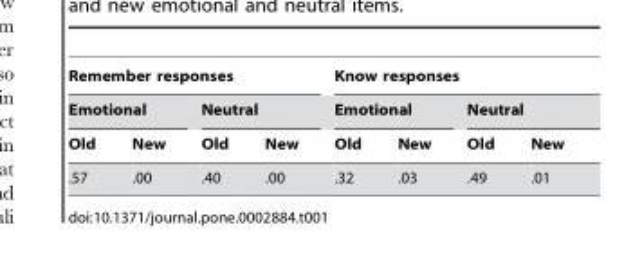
<table><thead><tr><td colspan="4">Remember responses</td><td colspan="4">Know responses</td></tr><tr><td colspan="2">Emotional</td><td colspan="2">Neutral</td><td colspan="2">Emotional</td><td colspan="2">Neutral</td></tr><tr><td>Old</td><td>New</td><td>Old</td><td>New</td><td>Old</td><td>New</td><td>Old</td><td>New</td></tr></thead><tbody><tr><td>.57</td><td>.00</td><td>.40</td><td>.00</td><td>.32</td><td>.03</td><td>.49</td><td>.01</td></tr></tbody></table>